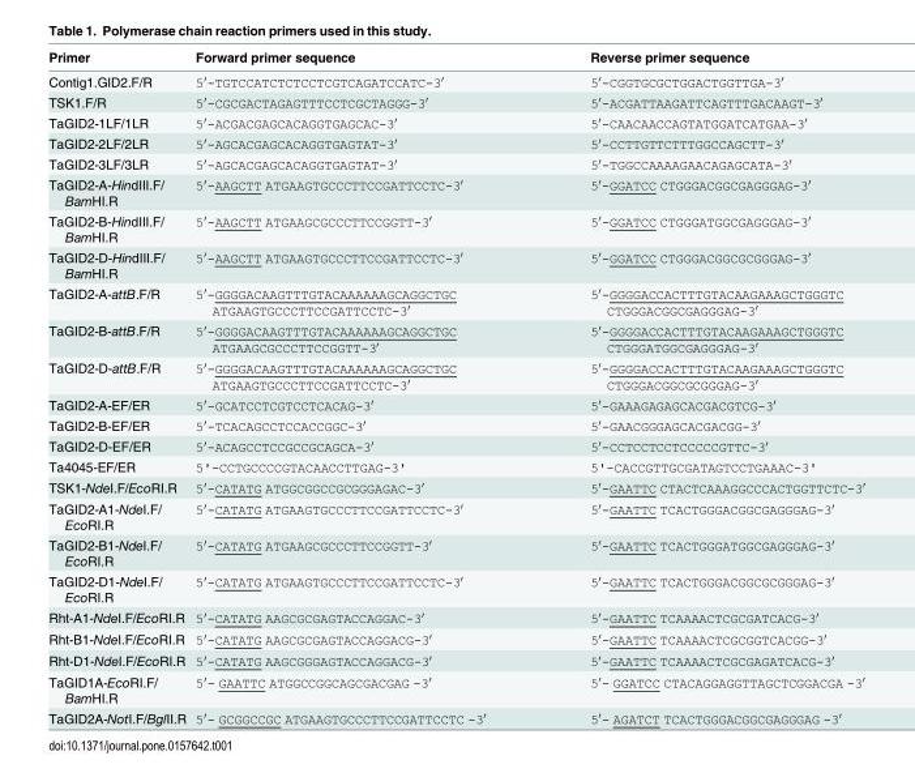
<table><thead><tr><td>Primer</td><td>Forward primer sequence</td><td>Reverse primer sequence</td></tr></thead><tbody><tr><td>Contig1.GID2.F/R</td><td>5′-TGTCCATCTCTCCTCGTCAGATCCATC-3′</td><td>5′-CGGTGCGCTGGACTGGTTGA-3′</td></tr><tr><td>TSK1.F/R</td><td>5′-CGCGACTAGAGTTTCCTCGCTAGGG-3′</td><td>5′-ACGATTAAGATTCAGTTTGACAAGT-3′</td></tr><tr><td>TaGID2-1LF/1LR</td><td>5′-ACGACGAGCACAGGTGAGCAC-3′</td><td>5′-CAACAACCAGTATGGATCATGAA-3′</td></tr><tr><td>TaGID2-2LF/2LR</td><td>5′-AGCACGAGCACAGGTGAGTAT-3′</td><td>5′-CCTTGTTCTTTGGCCAGCTT-3′</td></tr><tr><td>TaGID2-3LF/3LR</td><td>5′-AGCACGAGCACAGGTGAGTAT-3′</td><td>5′-TGGCCAAAAGAACAGAGCATA-3′</td></tr><tr><td>TaGID2-A-HindIII.F/ BamHI.R</td><td>5′-AAGCTT ATGAAGTGCCCTTCCGATTCCTC-3′</td><td>5′-GGATCC CTGGGACGGCGAGGGAG-3′</td></tr><tr><td>TaGID2-B-HindIII.F/ BamHI.R</td><td>5′-AAGCTT ATGAAGCGCCCTTCCGGTT-3′</td><td>5′-GGATCC CTGGGATGGCGAGGGAG-3′</td></tr><tr><td>TaGID2-D-HindIII.F/ BamHI.R</td><td>5′-AAGCTT ATGAAGTGCCCTTCCGATTCCTC-3′</td><td>5′-GGATCC CTGGGACGGCGCGGGAG-3′</td></tr><tr><td>TaGID2-A-attB.F/R</td><td>5′-GGGGACAAGTTTGTACAAAAAAGCAGGCTGC ATGAAGTGCCCTTCCGATTCCTC-3′</td><td>5′-GGGGACCACTTTGTACAAGAAAGCTGGGTC CTGGGACGGCGAGGGAG-3′</td></tr><tr><td>TaGID2-B-attB.F/R</td><td>5′-GGGGACAAGTTTGTACAAAAAAGCAGGCTGC ATGAAGCGCCCTTCCGGTT-3′</td><td>5′-GGGGACCACTTTGTACAAGAAAGCTGGGTC CTGGGATGGCGAGGGAG-3′</td></tr><tr><td>TaGID2-D-attB.F/R</td><td>5′-GGGGACAAGTTTGTACAAAAAAGCAGGCTGC ATGAAGTGCCCTTCCGATTCCTC-3′</td><td>5′-GGGGACCACTTTGTACAAGAAAGCTGGGTC CTGGGACGGCGCGGGAG-3′</td></tr><tr><td>TaGID2-A-EF/ER</td><td>5′-GCATCCTCGTCCTCACAG-3′</td><td>5′-GAAAGAGAGCACGACGTCG-3′</td></tr><tr><td>TaGID2-B-EF/ER</td><td>5′-TCACAGCCTCCACCGGC-3′</td><td>5′-GAACGGGAGCACGACGG-3′</td></tr><tr><td>TaGID2-D-EF/ER</td><td>5′-ACAGCCTCCGCCGCAGCA-3′</td><td>5′-CCTCCTCCTCCCCCGTTC-3′</td></tr><tr><td>Ta4045-EF/ER</td><td>5&#x27;-CCTGCCCCGTACAACCTTGAG-3&#x27;</td><td>5&#x27;-CACCGTTGCGATAGTCCTGAAAC-3&#x27;</td></tr><tr><td>TSK1-NdeI.F/EcoRI.R</td><td>5′-CATATG ATGGCGGCCGCGGGAGAC-3′</td><td>5′-GAATTC CTACTCAAAGGCCCACTGGTTCTC-3′</td></tr><tr><td>TaGID2-A1-NdeI.F/ EcoRI.R</td><td>5′-CATATG ATGAAGTGCCCTTCCGATTCCTC-3′</td><td>5′-GAATTC TCACTGGGACGGCGAGGGAG-3′</td></tr><tr><td>TaGID2-B1-NdeI.F/ EcoRI.R</td><td>5′-CATATG ATGAAGCGCCCTTCCGGTT-3′</td><td>5′-GAATTC TCACTGGGATGGCGAGGGAG-3′</td></tr><tr><td>TaGID2-D1-NdeI.F/ EcoRI.R</td><td>5′-CATATG ATGAAGTGCCCTTCCGATTCCTC-3′</td><td>5′-GAATTC TCACTGGGACGGCGCGGGAG-3′</td></tr><tr><td>Rht-A1-NdeI.F/EcoRI.R</td><td>5′-CATATG AAGCGCGAGTACCAGGAC-3′</td><td>5′-GAATTC TCAAAACTCGCGATCACG-3′</td></tr><tr><td>Rht-B1-NdeI.F/EcoRI.R</td><td>5′-CATATG AAGCGCGAGTACCAGGACG-3′</td><td>5′-GAATTC TCAAAACTCGCGGTCACGG-3′</td></tr><tr><td>Rht-D1-NdeI.F/EcoRI.R</td><td>5′-CATATG AAGCGGGAGTACCAGGACG-3′</td><td>5′-GAATTC TCAAAACTCGCGAGATCACG-3′</td></tr><tr><td>TaGID1A-EcoRI.F/ BamHI.R</td><td>5′- GAATTC ATGGCCGGCAGCGACGAG -3′</td><td>5′- GGATCC CTACAGGAGGTTAGCTCGGACGA -3′</td></tr><tr><td>TaGID2A-NotI.F/BglII.R</td><td>5′- GCGGCCGC ATGAAGTGCCCTTCCGATTCCTC -3′</td><td>5′- AGATCT TCACTGGGACGGCGAGGGAG -3′</td></tr></tbody></table>